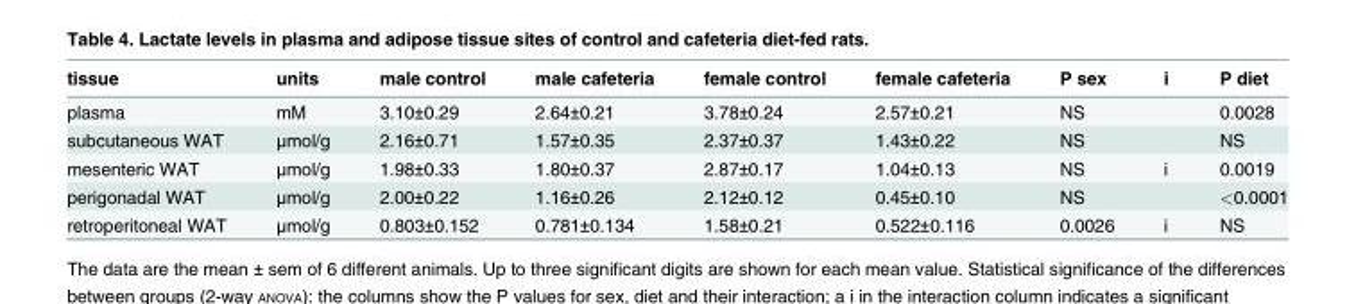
<table><thead><tr><td>tissue</td><td>units</td><td>male control</td><td>male cafeteria</td><td>female control</td><td>female cafeteria</td><td>P sex</td><td>i</td><td>P diet</td></tr></thead><tbody><tr><td>plasma</td><td>mM</td><td>3.10±0.29</td><td>2.64±0.21</td><td>3.78±0.24</td><td>2.57±0.21</td><td>NS</td><td></td><td>0.0028</td></tr><tr><td>subcutaneous WAT</td><td>μmol/g</td><td>2.16±0.71</td><td>1.57±0.35</td><td>2.37±0.37</td><td>1.43±0.22</td><td>NS</td><td></td><td>NS</td></tr><tr><td>mesenteric WAT</td><td>μmol/g</td><td>1.98±0.33</td><td>1.80±0.37</td><td>2.87±0.17</td><td>1.04±0.13</td><td>NS</td><td>i</td><td>0.0019</td></tr><tr><td>perigonadal WAT</td><td>μmol/g</td><td>2.00±0.22</td><td>1.16±0.26</td><td>2.12±0.12</td><td>0.45±0.10</td><td>NS</td><td></td><td>&lt;0.0001</td></tr><tr><td>retroperitoneal WAT</td><td>μmol/g</td><td>0.803±0.152</td><td>0.781±0.134</td><td>1.58±0.21</td><td>0.522±0.116</td><td>0.0026</td><td>i</td><td>NS</td></tr></tbody></table>